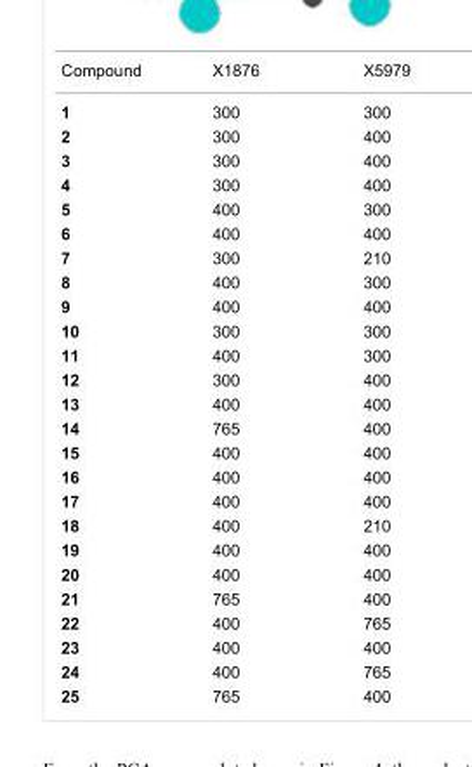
<table><tbody><tr><td>Compound</td><td>X1876</td><td>X5979</td></tr><tr><td>1</td><td>300</td><td>300</td></tr><tr><td>2</td><td>300</td><td>400</td></tr><tr><td>3</td><td>300</td><td>400</td></tr><tr><td>4</td><td>300</td><td>400</td></tr><tr><td>5</td><td>400</td><td>300</td></tr><tr><td>6</td><td>400</td><td>400</td></tr><tr><td>7</td><td>300</td><td>210</td></tr><tr><td>8</td><td>400</td><td>300</td></tr><tr><td>9</td><td>400</td><td>400</td></tr><tr><td>10</td><td>300</td><td>300</td></tr><tr><td>11</td><td>400</td><td>300</td></tr><tr><td>12</td><td>300</td><td>400</td></tr><tr><td>13</td><td>400</td><td>400</td></tr><tr><td>14</td><td>765</td><td>400</td></tr><tr><td>15</td><td>400</td><td>400</td></tr><tr><td>16</td><td>400</td><td>400</td></tr><tr><td>17</td><td>400</td><td>400</td></tr><tr><td>18</td><td>400</td><td>210</td></tr><tr><td>19</td><td>400</td><td>400</td></tr><tr><td>20</td><td>400</td><td>400</td></tr><tr><td>21</td><td>765</td><td>400</td></tr><tr><td>22</td><td>400</td><td>765</td></tr><tr><td>23</td><td>400</td><td>400</td></tr><tr><td>24</td><td>400</td><td>765</td></tr><tr><td>25</td><td>765</td><td>400</td></tr></tbody></table>